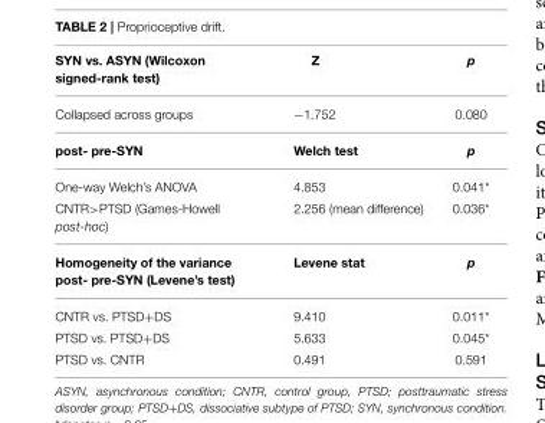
<table><thead><tr><td>SYN vs. ASYN (Wilcoxon signed-rank test)</td><td>Z</td><td>p</td></tr></thead><tbody><tr><td>Collapsed across groups</td><td>−1.752</td><td>0.080</td></tr><tr><td>post- pre-SYN</td><td>Welch test</td><td>p</td></tr><tr><td>One-way Welch’s ANOVA</td><td>4.853</td><td>0.041*</td></tr><tr><td>CNTR&gt;PTSD (Games-Howell post-hoc)</td><td>2.256 (mean difference)</td><td>0.036*</td></tr><tr><td>Homogeneity of the variance post- pre-SYN (Levene’s test)</td><td>Levene stat</td><td>p</td></tr><tr><td>CNTR vs. PTSD+DS</td><td>9.410</td><td>0.011*</td></tr><tr><td>PTSD vs. PTSD+DS</td><td>5.633</td><td>0.045*</td></tr><tr><td>PTSD vs. CNTR</td><td>0.491</td><td>0.591</td></tr></tbody></table>